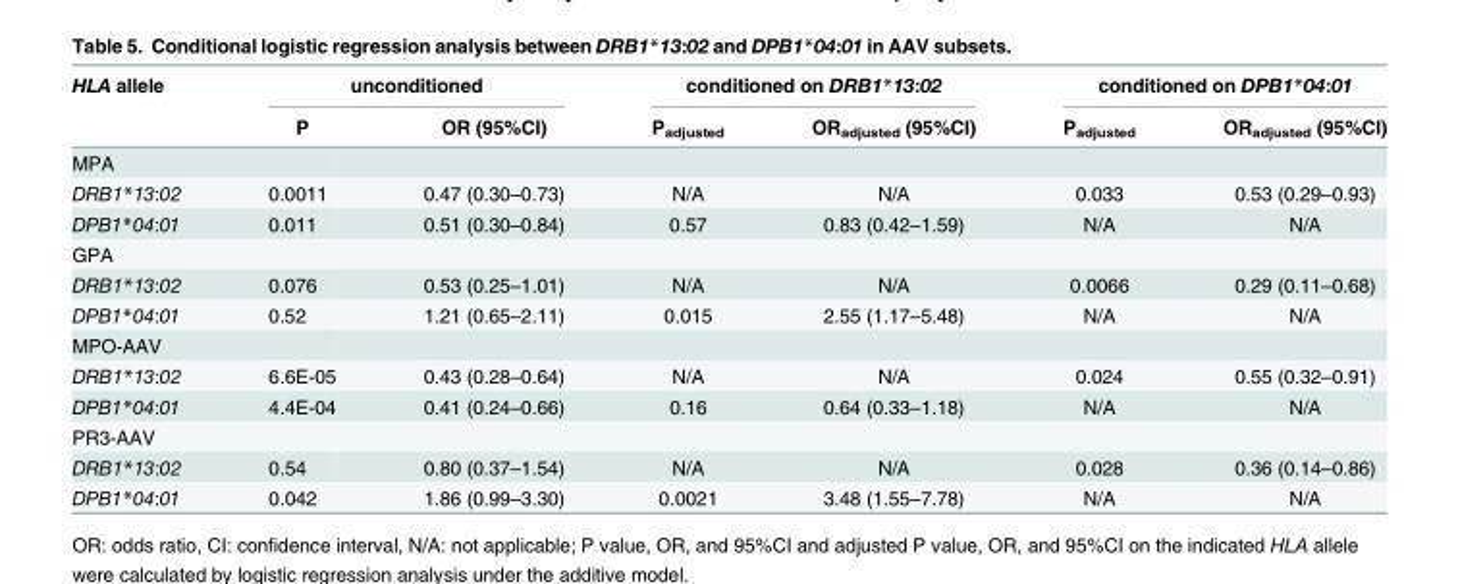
<table><thead><tr><td rowspan="2">HLA allele</td><td colspan="2">unconditioned</td><td colspan="2">conditioned on DRB1*13:02</td><td colspan="2">conditioned on DPB1*04:01</td></tr><tr><td>P</td><td>OR (95%CI)</td><td>P<sub>adjusted</sub></td><td>OR<sub>adjusted</sub> (95%CI)</td><td>P<sub>adjusted</sub></td><td>OR<sub>adjusted</sub> (95%CI)</td></tr></thead><tbody><tr><td colspan="7">MPA</td></tr><tr><td>DRB1*13:02</td><td>0.0011</td><td>0.47 (0.30–0.73)</td><td>N/A</td><td>N/A</td><td>0.033</td><td>0.53 (0.29–0.93)</td></tr><tr><td>DPB1*04:01</td><td>0.011</td><td>0.51 (0.30–0.84)</td><td>0.57</td><td>0.83 (0.42–1.59)</td><td>N/A</td><td>N/A</td></tr><tr><td colspan="7">GPA</td></tr><tr><td>DRB1*13:02</td><td>0.076</td><td>0.53 (0.25–1.01)</td><td>N/A</td><td>N/A</td><td>0.0066</td><td>0.29 (0.11–0.68)</td></tr><tr><td>DPB1*04:01</td><td>0.52</td><td>1.21 (0.65–2.11)</td><td>0.015</td><td>2.55 (1.17–5.48)</td><td>N/A</td><td>N/A</td></tr><tr><td colspan="7">MPO-AAV</td></tr><tr><td>DRB1*13:02</td><td>6.6E-05</td><td>0.43 (0.28–0.64)</td><td>N/A</td><td>N/A</td><td>0.024</td><td>0.55 (0.32–0.91)</td></tr><tr><td>DPB1*04:01</td><td>4.4E-04</td><td>0.41 (0.24–0.66)</td><td>0.16</td><td>0.64 (0.33–1.18)</td><td>N/A</td><td>N/A</td></tr><tr><td colspan="7">PR3-AAV</td></tr><tr><td>DRB1*13:02</td><td>0.54</td><td>0.80 (0.37–1.54)</td><td>N/A</td><td>N/A</td><td>0.028</td><td>0.36 (0.14–0.86)</td></tr><tr><td>DPB1*04:01</td><td>0.042</td><td>1.86 (0.99–3.30)</td><td>0.0021</td><td>3.48 (1.55–7.78)</td><td>N/A</td><td>N/A</td></tr></tbody></table>